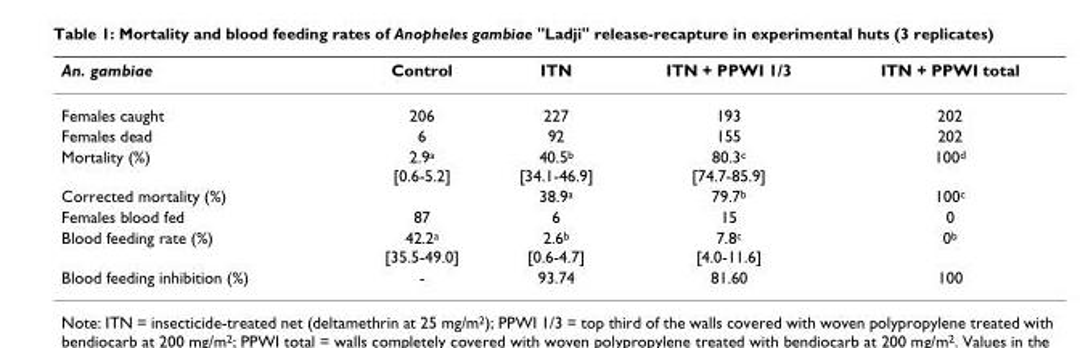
<table><thead><tr><td>An. gambiae</td><td>Control</td><td>ITN</td><td>ITN + PPWI 1/3</td><td>ITN + PPWI total</td></tr></thead><tbody><tr><td>Females caught</td><td>206</td><td>227</td><td>193</td><td>202</td></tr><tr><td>Females dead</td><td>6</td><td>92</td><td>155</td><td>202</td></tr><tr><td>Mortality (%)</td><td>2.9<sup>a</sup> [0.6-5.2]</td><td>40.5<sup>b</sup> [34.1-46.9]</td><td>80.3<sup>c</sup> [74.7-85.9]</td><td>100<sup>d</sup></td></tr><tr><td>Corrected mortality (%)</td><td></td><td>38.9<sup>a</sup></td><td>79.7<sup>b</sup></td><td>100<sup>c</sup></td></tr><tr><td>Females blood fed</td><td>87</td><td>6</td><td>15</td><td>0</td></tr><tr><td>Blood feeding rate (%)</td><td>42.2<sup>a</sup> [35.5-49.0]</td><td>2.6<sup>b</sup> [0.6-4.7]</td><td>7.8<sup>c</sup> [4.0-11.6]</td><td>0<sup>b</sup></td></tr><tr><td>Blood feeding inhibition (%)</td><td>-</td><td>93.74</td><td>81.60</td><td>100</td></tr></tbody></table>